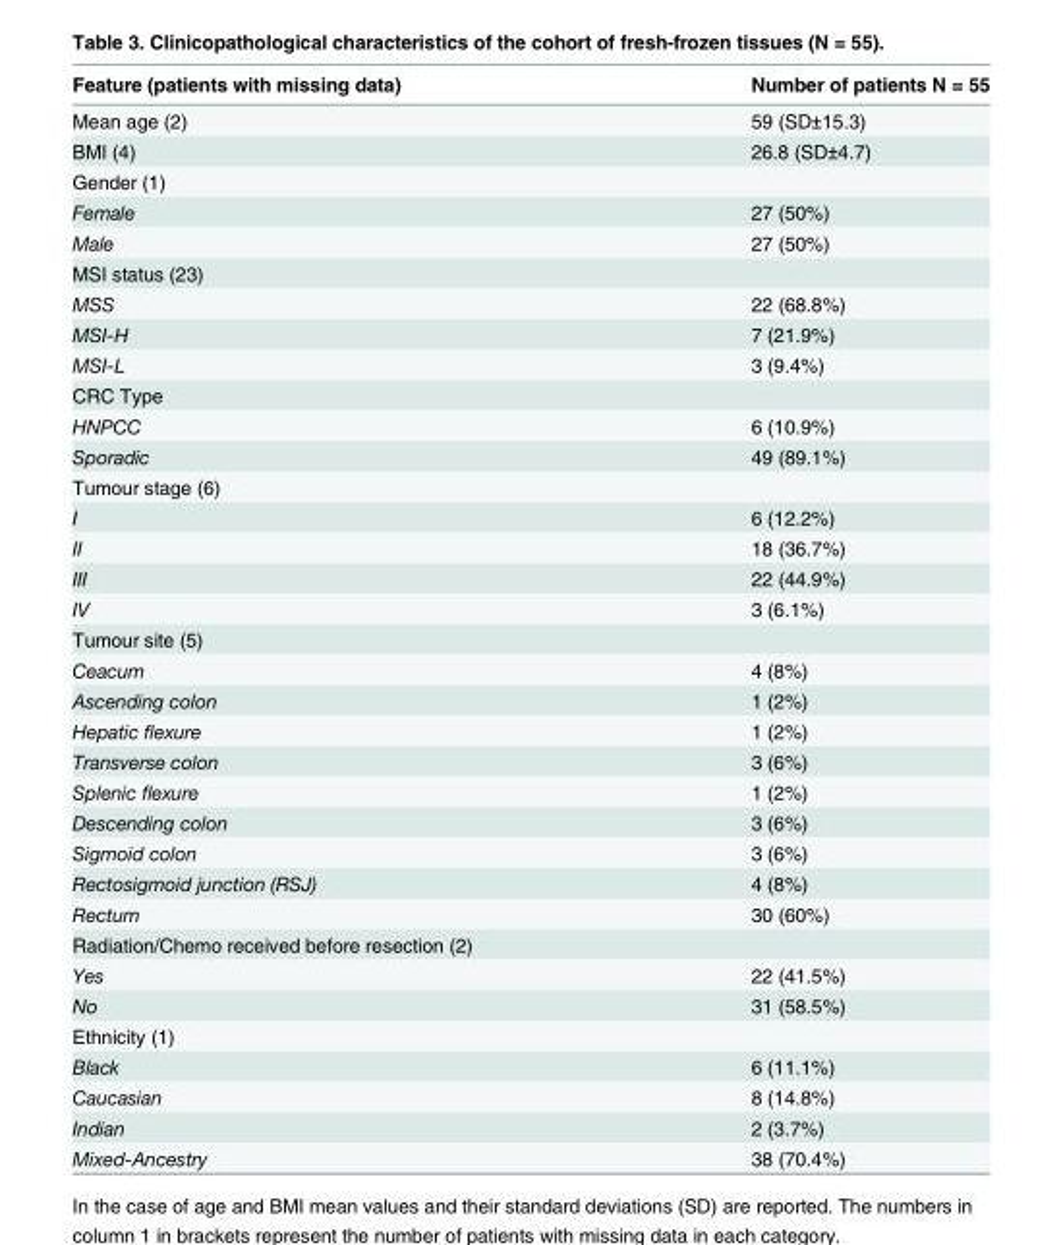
<table><thead><tr><td>Feature (patients with missing data)</td><td>Number of patients N = 55</td></tr></thead><tbody><tr><td>Mean age (2)</td><td>59 (SD±15.3)</td></tr><tr><td>BMI (4)</td><td>26.8 (SD±4.7)</td></tr><tr><td colspan="2">Gender (1)</td></tr><tr><td>Female</td><td>27 (50%)</td></tr><tr><td>Male</td><td>27 (50%)</td></tr><tr><td colspan="2">MSI status (23)</td></tr><tr><td>MSS</td><td>22 (68.8%)</td></tr><tr><td>MSI-H</td><td>7 (21.9%)</td></tr><tr><td>MSI-L</td><td>3 (9.4%)</td></tr><tr><td colspan="2">CRC Type</td></tr><tr><td>HNPCC</td><td>6 (10.9%)</td></tr><tr><td>Sporadic</td><td>49 (89.1%)</td></tr><tr><td colspan="2">Tumour stage (6)</td></tr><tr><td>I</td><td>6 (12.2%)</td></tr><tr><td>II</td><td>18 (36.7%)</td></tr><tr><td>III</td><td>22 (44.9%)</td></tr><tr><td>IV</td><td>3 (6.1%)</td></tr><tr><td colspan="2">Tumour site (5)</td></tr><tr><td>Ceacum</td><td>4 (8%)</td></tr><tr><td>Ascending colon</td><td>1 (2%)</td></tr><tr><td>Hepatic flexure</td><td>1 (2%)</td></tr><tr><td>Transverse colon</td><td>3 (6%)</td></tr><tr><td>Splenic flexure</td><td>1 (2%)</td></tr><tr><td>Descending colon</td><td>3 (6%)</td></tr><tr><td>Sigmoid colon</td><td>3 (6%)</td></tr><tr><td>Rectosigmoid junction (RSJ)</td><td>4 (8%)</td></tr><tr><td>Rectum</td><td>30 (60%)</td></tr><tr><td colspan="2">Radiation/Chemo received before resection (2)</td></tr><tr><td>Yes</td><td>22 (41.5%)</td></tr><tr><td>No</td><td>31 (58.5%)</td></tr><tr><td colspan="2">Ethnicity (1)</td></tr><tr><td>Black</td><td>6 (11.1%)</td></tr><tr><td>Caucasian</td><td>8 (14.8%)</td></tr><tr><td>Indian</td><td>2 (3.7%)</td></tr><tr><td>Mixed-Ancestry</td><td>38 (70.4%)</td></tr></tbody></table>